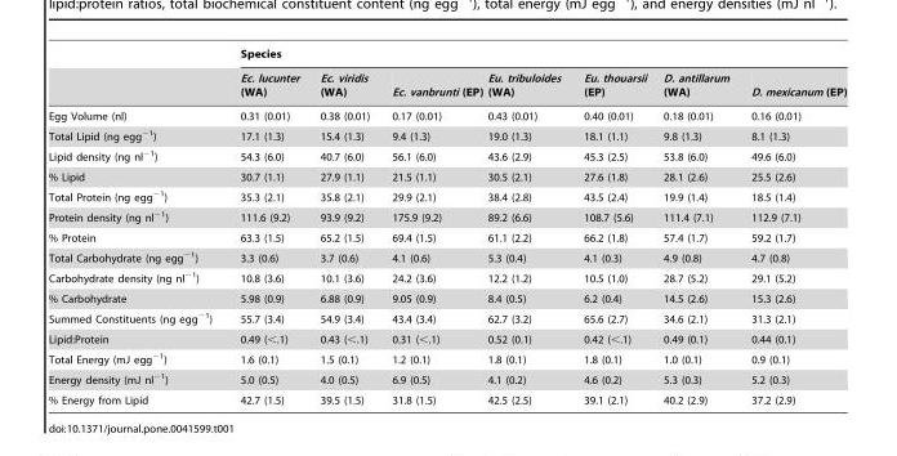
<table><thead><tr><td rowspan="2"></td><td colspan="7">Species</td></tr><tr><td>Ec. lucunter (WA)</td><td>Ec. viridis (WA)</td><td>Ec. vanbrunti (EP)</td><td>Eu. tribuloides (WA)</td><td>Eu. thouarsii (EP)</td><td>D. antillarum (WA)</td><td>D. mexicanum (EP)</td></tr></thead><tbody><tr><td>Egg Volume (nl)</td><td>0.31 (0.01)</td><td>0.38 (0.01)</td><td>0.17 (0.01)</td><td>0.43 (0.01)</td><td>0.40 (0.01)</td><td>0.18 (0.01)</td><td>0.16 (0.01)</td></tr><tr><td>Total Lipid (ng egg<sup>−1</sup>)</td><td>17.1 (1.3)</td><td>15.4 (1.3)</td><td>9.4 (1.3)</td><td>19.0 (1.3)</td><td>18.1 (1.1)</td><td>9.8 (1.3)</td><td>8.1 (1.3)</td></tr><tr><td>Lipid density (ng nl<sup>−1</sup>)</td><td>54.3 (6.0)</td><td>40.7 (6.0)</td><td>56.1 (6.0)</td><td>43.6 (2.9)</td><td>45.3 (2.5)</td><td>53.8 (6.0)</td><td>49.6 (6.0)</td></tr><tr><td>% Lipid</td><td>30.7 (1.1)</td><td>27.9 (1.1)</td><td>21.5 (1.1)</td><td>30.5 (2.1)</td><td>27.6 (1.8)</td><td>28.1 (2.6)</td><td>25.5 (2.6)</td></tr><tr><td>Total Protein (ng egg<sup>−1</sup>)</td><td>35.3 (2.1)</td><td>35.8 (2.1)</td><td>29.9 (2.1)</td><td>38.4 (2.8)</td><td>43.5 (2.4)</td><td>19.9 (1.4)</td><td>18.5 (1.4)</td></tr><tr><td>Protein density (ng nl<sup>−1</sup>)</td><td>111.6 (9.2)</td><td>93.9 (9.2)</td><td>175.9 (9.2)</td><td>89.2 (6.6)</td><td>108.7 (5.6)</td><td>111.4 (7.1)</td><td>112.9 (7.1)</td></tr><tr><td>% Protein</td><td>63.3 (1.5)</td><td>65.2 (1.5)</td><td>69.4 (1.5)</td><td>61.1 (2.2)</td><td>66.2 (1.8)</td><td>57.4 (1.7)</td><td>59.2 (1.7)</td></tr><tr><td>Total Carbohydrate (ng egg<sup>−1</sup>)</td><td>3.3 (0.6)</td><td>3.7 (0.6)</td><td>4.1 (0.6)</td><td>5.3 (0.4)</td><td>4.1 (0.3)</td><td>4.9 (0.8)</td><td>4.7 (0.8)</td></tr><tr><td>Carbohydrate density (ng nl<sup>−1</sup>)</td><td>10.8 (3.6)</td><td>10.1 (3.6)</td><td>24.2 (3.6)</td><td>12.2 (1.2)</td><td>10.5 (1.0)</td><td>28.7 (5.2)</td><td>29.1 (5.2)</td></tr><tr><td>% Carbohydrate</td><td>5.98 (0.9)</td><td>6.88 (0.9)</td><td>9.05 (0.9)</td><td>8.4 (0.5)</td><td>6.2 (0.4)</td><td>14.5 (2.6)</td><td>15.3 (2.6)</td></tr><tr><td>Summed Constituents (ng egg<sup>−1</sup>)</td><td>55.7 (3.4)</td><td>54.9 (3.4)</td><td>43.4 (3.4)</td><td>62.7 (3.2)</td><td>65.6 (2.7)</td><td>34.6 (2.1)</td><td>31.3 (2.1)</td></tr><tr><td>Lipid:Protein</td><td>0.49 (&lt;.1)</td><td>0.43 (&lt;.1)</td><td>0.31 (&lt;.1)</td><td>0.52 (0.1)</td><td>0.42 (&lt;.1)</td><td>0.49 (0.1)</td><td>0.44 (0.1)</td></tr><tr><td>Total Energy (mJ egg<sup>−1</sup>)</td><td>1.6 (0.1)</td><td>1.5 (0.1)</td><td>1.2 (0.1)</td><td>1.8 (0.1)</td><td>1.8 (0.1)</td><td>1.0 (0.1)</td><td>0.9 (0.1)</td></tr><tr><td>Energy density (mJ nl<sup>−1</sup>)</td><td>5.0 (0.5)</td><td>4.0 (0.5)</td><td>6.9 (0.5)</td><td>4.1 (0.2)</td><td>4.6 (0.2)</td><td>5.3 (0.3)</td><td>5.2 (0.3)</td></tr><tr><td>% Energy from Lipid</td><td>42.7 (1.5)</td><td>39.5 (1.5)</td><td>31.8 (1.5)</td><td>42.5 (2.5)</td><td>39.1 (2.1)</td><td>40.2 (2.9)</td><td>37.2 (2.9)</td></tr></tbody></table>